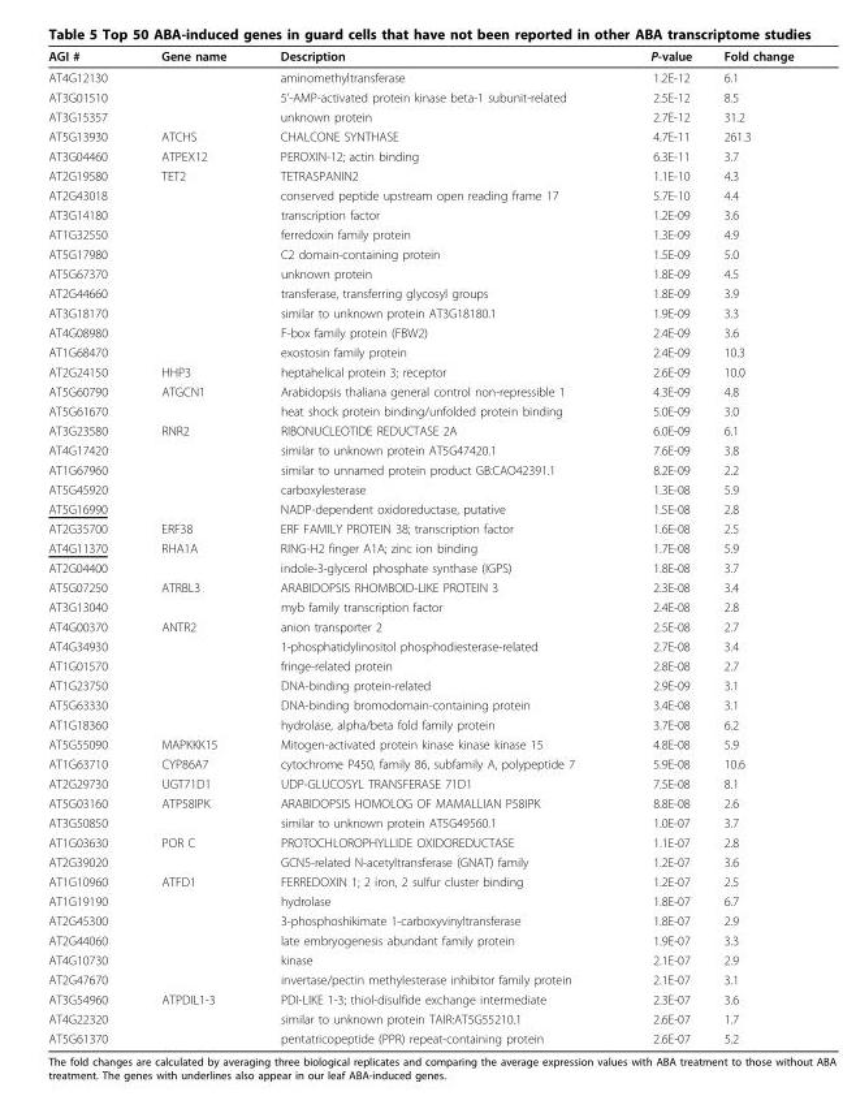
<table><thead><tr><td>AGI #</td><td>Gene name</td><td>Description</td><td>P-value</td><td>Fold change</td></tr></thead><tbody><tr><td>AT4G12130</td><td></td><td>aminomethyltransferase</td><td>1.2E-12</td><td>6.1</td></tr><tr><td>AT3G01510</td><td></td><td>5’-AMP-activated protein kinase beta-1 subunit-related</td><td>2.5E-12</td><td>8.5</td></tr><tr><td>AT3G15357</td><td></td><td>unknown protein</td><td>2.7E-12</td><td>31.2</td></tr><tr><td>AT5G13930</td><td>ATCHS</td><td>CHALCONE SYNTHASE</td><td>4.7E-11</td><td>261.3</td></tr><tr><td>AT3G04460</td><td>ATPEX12</td><td>PEROXIN-12; actin binding</td><td>6.3E-11</td><td>3.7</td></tr><tr><td>AT2G19580</td><td>TET2</td><td>TETRASPANIN2</td><td>1.1E-10</td><td>4.3</td></tr><tr><td>AT2G43018</td><td></td><td>conserved peptide upstream open reading frame 17</td><td>5.7E-10</td><td>4.4</td></tr><tr><td>AT3G14180</td><td></td><td>transcription factor</td><td>1.2E-09</td><td>3.6</td></tr><tr><td>AT1G32550</td><td></td><td>ferredoxin family protein</td><td>1.3E-09</td><td>4.9</td></tr><tr><td>AT5G17980</td><td></td><td>C2 domain-containing protein</td><td>1.5E-09</td><td>5.0</td></tr><tr><td>AT5G67370</td><td></td><td>unknown protein</td><td>1.8E-09</td><td>4.5</td></tr><tr><td>AT2G44660</td><td></td><td>transferase, transferring glycosyl groups</td><td>1.8E-09</td><td>3.9</td></tr><tr><td>AT3G18170</td><td></td><td>similar to unknown protein AT3G18180.1</td><td>1.9E-09</td><td>3.3</td></tr><tr><td>AT4G08980</td><td></td><td>F-box family protein (FBW2)</td><td>2.4E-09</td><td>3.6</td></tr><tr><td>AT1G68470</td><td></td><td>exostosin family protein</td><td>2.4E-09</td><td>10.3</td></tr><tr><td>AT2G24150</td><td>HHP3</td><td>heptahelical protein 3; receptor</td><td>2.6E-09</td><td>10.0</td></tr><tr><td>AT5G60790</td><td>ATGCN1</td><td>Arabidopsis thaliana general control non-repressible 1</td><td>4.3E-09</td><td>4.8</td></tr><tr><td>AT5G61670</td><td></td><td>heat shock protein binding/unfolded protein binding</td><td>5.0E-09</td><td>3.0</td></tr><tr><td>AT3G23580</td><td>RNR2</td><td>RIBONUCLEOTIDE REDUCTASE 2A</td><td>6.0E-09</td><td>6.1</td></tr><tr><td>AT4G17420</td><td></td><td>similar to unknown protein AT5G47420.1</td><td>7.6E-09</td><td>3.8</td></tr><tr><td>AT1G67960</td><td></td><td>similar to unnamed protein product GB:CAO42391.1</td><td>8.2E-09</td><td>2.2</td></tr><tr><td>AT5G45920</td><td></td><td>carboxylesterase</td><td>1.3E-08</td><td>5.9</td></tr><tr><td>AT5G16990</td><td></td><td>NADP-dependent oxidoreductase, putative</td><td>1.5E-08</td><td>2.8</td></tr><tr><td>AT2G35700</td><td>ERF38</td><td>ERF FAMILY PROTEIN 38; transcription factor</td><td>1.6E-08</td><td>2.5</td></tr><tr><td>AT4G11370</td><td>RHA1A</td><td>RING-H2 finger A1A; zinc ion binding</td><td>1.7E-08</td><td>5.9</td></tr><tr><td>AT2G04400</td><td></td><td>indole-3-glycerol phosphate synthase (IGPS)</td><td>1.8E-08</td><td>3.7</td></tr><tr><td>AT5G07250</td><td>ATRBL3</td><td>ARABIDOPSIS RHOMBOID-LIKE PROTEIN 3</td><td>2.3E-08</td><td>3.4</td></tr><tr><td>AT3G13040</td><td></td><td>myb family transcription factor</td><td>2.4E-08</td><td>2.8</td></tr><tr><td>AT4G00370</td><td>ANTR2</td><td>anion transporter 2</td><td>2.5E-08</td><td>2.7</td></tr><tr><td>AT4G34930</td><td></td><td>1-phosphatidylinositol phosphodiesterase-related</td><td>2.7E-08</td><td>3.4</td></tr><tr><td>AT1G01570</td><td></td><td>fringe-related protein</td><td>2.8E-08</td><td>2.7</td></tr><tr><td>AT1G23750</td><td></td><td>DNA-binding protein-related</td><td>2.9E-09</td><td>3.1</td></tr><tr><td>AT5G63330</td><td></td><td>DNA-binding bromodomain-containing protein</td><td>3.4E-08</td><td>3.1</td></tr><tr><td>AT1G18360</td><td></td><td>hydrolase, alpha/beta fold family protein</td><td>3.7E-08</td><td>6.2</td></tr><tr><td>AT5G55090</td><td>MAPKKK15</td><td>Mitogen-activated protein kinase kinase kinase 15</td><td>4.8E-08</td><td>5.9</td></tr><tr><td>AT1G63710</td><td>CYP86A7</td><td>cytochrome P450, family 86, subfamily A, polypeptide 7</td><td>5.9E-08</td><td>10.6</td></tr><tr><td>AT2G29730</td><td>UGT71D1</td><td>UDP-GLUCOSYL TRANSFERASE 71D1</td><td>7.5E-08</td><td>8.1</td></tr><tr><td>AT5G03160</td><td>ATP58IPK</td><td>ARABIDOPSIS HOMOLOG OF MAMALLIAN P58IPK</td><td>8.8E-08</td><td>2.6</td></tr><tr><td>AT3G50850</td><td></td><td>similar to unknown protein AT5G49560.1</td><td>1.0E-07</td><td>3.7</td></tr><tr><td>AT1G03630</td><td>POR C</td><td>PROTOCHLOROPHYLLIDE OXIDOREDUCTASE</td><td>1.1E-07</td><td>2.8</td></tr><tr><td>AT2G39020</td><td></td><td>GCN5-related N-acetyltransferase (GNAT) family</td><td>1.2E-07</td><td>3.6</td></tr><tr><td>AT1G10960</td><td>ATFD1</td><td>FERREDOXIN 1; 2 iron, 2 sulfur cluster binding</td><td>1.2E-07</td><td>2.5</td></tr><tr><td>AT1G19190</td><td></td><td>hydrolase</td><td>1.8E-07</td><td>6.7</td></tr><tr><td>AT2G45300</td><td></td><td>3-phosphoshikimate 1-carboxyvinyltransferase</td><td>1.8E-07</td><td>2.9</td></tr><tr><td>AT2G44060</td><td></td><td>late embryogenesis abundant family protein</td><td>1.9E-07</td><td>3.3</td></tr><tr><td>AT4G10730</td><td></td><td>kinase</td><td>2.1E-07</td><td>2.9</td></tr><tr><td>AT2G47670</td><td></td><td>invertase/pectin methylesterase inhibitor family protein</td><td>2.1E-07</td><td>3.1</td></tr><tr><td>AT3G54960</td><td>ATPDIL1-3</td><td>PDI-LIKE 1-3; thiol-disulfide exchange intermediate</td><td>2.3E-07</td><td>3.6</td></tr><tr><td>AT4G22320</td><td></td><td>similar to unknown protein TAIR:AT5G55210.1</td><td>2.6E-07</td><td>1.7</td></tr><tr><td>AT5G61370</td><td></td><td>pentatricopeptide (PPR) repeat-containing protein</td><td>2.6E-07</td><td>5.2</td></tr></tbody></table>